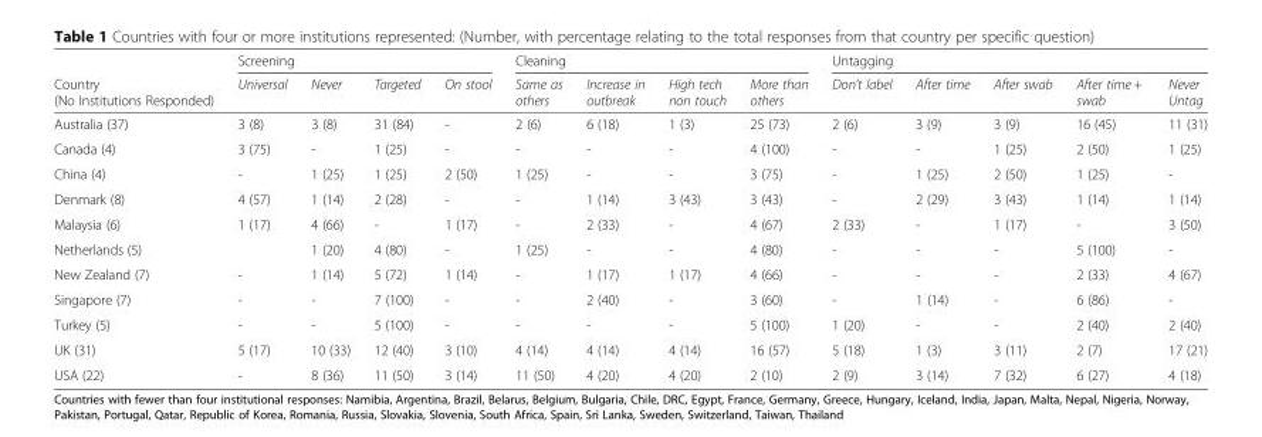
<table><thead><tr><td rowspan="2">Country (No Institutions Responded)</td><td colspan="4">Screening</td><td colspan="4">Cleaning</td><td colspan="5">Untagging</td></tr><tr><td>Universal</td><td>Never</td><td>Targeted</td><td>On stool</td><td>Same as others</td><td>Increase in outbreak</td><td>High tech non touch</td><td>More than others</td><td>Don’t label</td><td>After time</td><td>After swab</td><td>After time + swab</td><td>Never Untag</td></tr></thead><tbody><tr><td>Australia (37)</td><td>3 (8)</td><td>3 (8)</td><td>31 (84)</td><td>-</td><td>2 (6)</td><td>6 (18)</td><td>1 (3)</td><td>25 (73)</td><td>2 (6)</td><td>3 (9)</td><td>3 (9)</td><td>16 (45)</td><td>11 (31)</td></tr><tr><td>Canada (4)</td><td>3 (75)</td><td>-</td><td>1 (25)</td><td>-</td><td>-</td><td>-</td><td>-</td><td>4 (100)</td><td>-</td><td>-</td><td>1 (25)</td><td>2 (50)</td><td>1 (25)</td></tr><tr><td>China (4)</td><td>-</td><td>1 (25)</td><td>1 (25)</td><td>2 (50)</td><td>1 (25)</td><td>-</td><td>-</td><td>3 (75)</td><td>-</td><td>1 (25)</td><td>2 (50)</td><td>1 (25)</td><td>-</td></tr><tr><td>Denmark (8)</td><td>4 (57)</td><td>1 (14)</td><td>2 (28)</td><td>-</td><td>-</td><td>1 (14)</td><td>3 (43)</td><td>3 (43)</td><td>-</td><td>2 (29)</td><td>3 (43)</td><td>1 (14)</td><td>1 (14)</td></tr><tr><td>Malaysia (6)</td><td>1 (17)</td><td>4 (66)</td><td>-</td><td>1 (17)</td><td>-</td><td>2 (33)</td><td>-</td><td>4 (67)</td><td>2 (33)</td><td>-</td><td>1 (17)</td><td>-</td><td>3 (50)</td></tr><tr><td>Netherlands (5)</td><td></td><td>1 (20)</td><td>4 (80)</td><td>-</td><td>1 (25)</td><td>-</td><td>-</td><td>4 (80)</td><td>-</td><td>-</td><td>-</td><td>5 (100)</td><td>-</td></tr><tr><td>New Zealand (7)</td><td>-</td><td>1 (14)</td><td>5 (72)</td><td>1 (14)</td><td>-</td><td>1 (17)</td><td>1 (17)</td><td>4 (66)</td><td>-</td><td>-</td><td>-</td><td>2 (33)</td><td>4 (67)</td></tr><tr><td>Singapore (7)</td><td>-</td><td>-</td><td>7 (100)</td><td>-</td><td>-</td><td>2 (40)</td><td>-</td><td>3 (60)</td><td>-</td><td>1 (14)</td><td>-</td><td>6 (86)</td><td>-</td></tr><tr><td>Turkey (5)</td><td>-</td><td>-</td><td>5 (100)</td><td>-</td><td>-</td><td>-</td><td>-</td><td>5 (100)</td><td>1 (20)</td><td>-</td><td>-</td><td>2 (40)</td><td>2 (40)</td></tr><tr><td>UK (31)</td><td>5 (17)</td><td>10 (33)</td><td>12 (40)</td><td>3 (10)</td><td>4 (14)</td><td>4 (14)</td><td>4 (14)</td><td>16 (57)</td><td>5 (18)</td><td>1 (3)</td><td>3 (11)</td><td>2 (7)</td><td>17 (21)</td></tr><tr><td>USA (22)</td><td>-</td><td>8 (36)</td><td>11 (50)</td><td>3 (14)</td><td>11 (50)</td><td>4 (20)</td><td>4 (20)</td><td>2 (10)</td><td>2 (9)</td><td>3 (14)</td><td>7 (32)</td><td>6 (27)</td><td>4 (18)</td></tr></tbody></table>